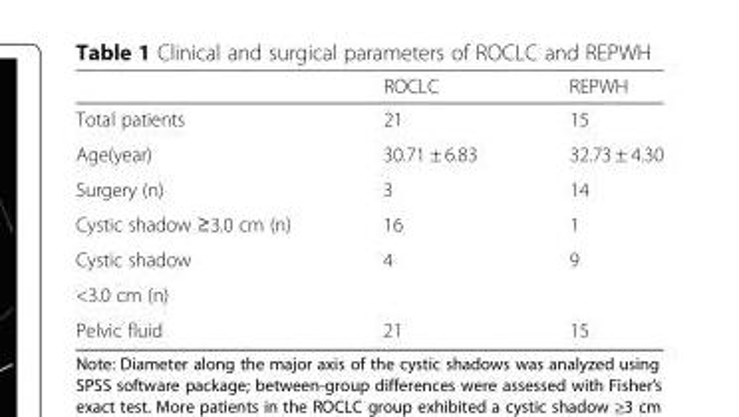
<table><thead><tr><td></td><td>ROCLC</td><td>REPWH</td></tr></thead><tbody><tr><td>Total patients</td><td>21</td><td>15</td></tr><tr><td>Age(year)</td><td>30.71 ± 6.83</td><td>32.73 ± 4.30</td></tr><tr><td>Surgery (n)</td><td>3</td><td>14</td></tr><tr><td>Cystic shadow ≥3.0 cm (n)</td><td>16</td><td>1</td></tr><tr><td>Cystic shadow</td><td>4</td><td>9</td></tr><tr><td colspan="3">&lt;3.0 cm (n)</td></tr><tr><td>Pelvic fluid</td><td>21</td><td>15</td></tr></tbody></table>